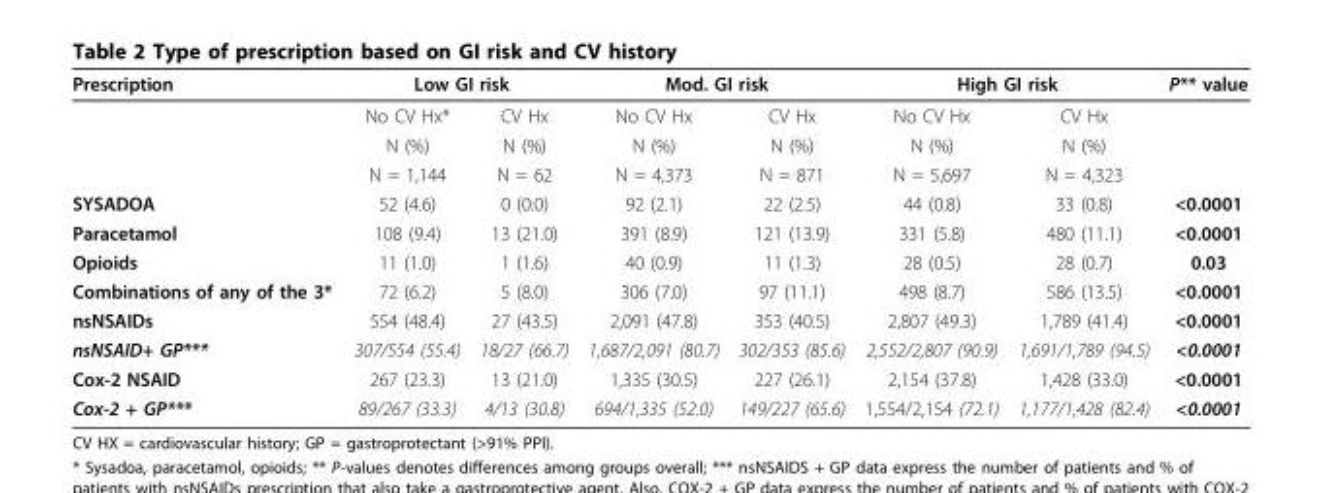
<table><thead><tr><td rowspan="2">Prescription</td><td colspan="2">Low GI risk</td><td colspan="2">Mod. GI risk</td><td colspan="2">High GI risk</td><td rowspan="2">P** value</td></tr><tr><td>No CV Hx*</td><td>CV Hx</td><td>No CV Hx</td><td>CV Hx</td><td>No CV Hx</td><td>CV Hx</td></tr></thead><tbody><tr><td></td><td>N (%)</td><td>N (%)</td><td>N (%)</td><td>N (%)</td><td>N (%)</td><td>N (%)</td><td></td></tr><tr><td></td><td>N = 1,144</td><td>N = 62</td><td>N = 4,373</td><td>N = 871</td><td>N = 5,697</td><td>N = 4,323</td><td></td></tr><tr><td>SYSADOA</td><td>52 (4.6)</td><td>0 (0.0)</td><td>92 (2.1)</td><td>22 (2.5)</td><td>44 (0.8)</td><td>33 (0.8)</td><td>&lt;0.0001</td></tr><tr><td>Paracetamol</td><td>108 (9.4)</td><td>13 (21.0)</td><td>391 (8.9)</td><td>121 (13.9)</td><td>331 (5.8)</td><td>480 (11.1)</td><td>&lt;0.0001</td></tr><tr><td>Opioids</td><td>11 (1.0)</td><td>1 (1.6)</td><td>40 (0.9)</td><td>11 (1.3)</td><td>28 (0.5)</td><td>28 (0.7)</td><td>0.03</td></tr><tr><td>Combinations of any of the 3*</td><td>72 (6.2)</td><td>5 (8.0)</td><td>306 (7.0)</td><td>97 (11.1)</td><td>498 (8.7)</td><td>586 (13.5)</td><td>&lt;0.0001</td></tr><tr><td>nsNSAIDs</td><td>554 (48.4)</td><td>27 (43.5)</td><td>2,091 (47.8)</td><td>353 (40.5)</td><td>2,807 (49.3)</td><td>1,789 (41.4)</td><td>&lt;0.0001</td></tr><tr><td>nsNSAID+ GP***</td><td>307/554 (55.4)</td><td>18/27 (66.7)</td><td>1,687/2,091 (80.7)</td><td>302/353 (85.6)</td><td>2,552/2,807 (90.9)</td><td>1,691/1,789 (94.5)</td><td>&lt;0.0001</td></tr><tr><td>Cox-2 NSAID</td><td>267 (23.3)</td><td>13 (21.0)</td><td>1,335 (30.5)</td><td>227 (26.1)</td><td>2,154 (37.8)</td><td>1,428 (33.0)</td><td>&lt;0.0001</td></tr><tr><td>Cox-2 + GP***</td><td>89/267 (33.3)</td><td>4/13 (30.8)</td><td>694/1,335 (52.0)</td><td>149/227 (65.6)</td><td>1,554/2,154 (72.1)</td><td>1,177/1,428 (82.4)</td><td>&lt;0.0001</td></tr></tbody></table>